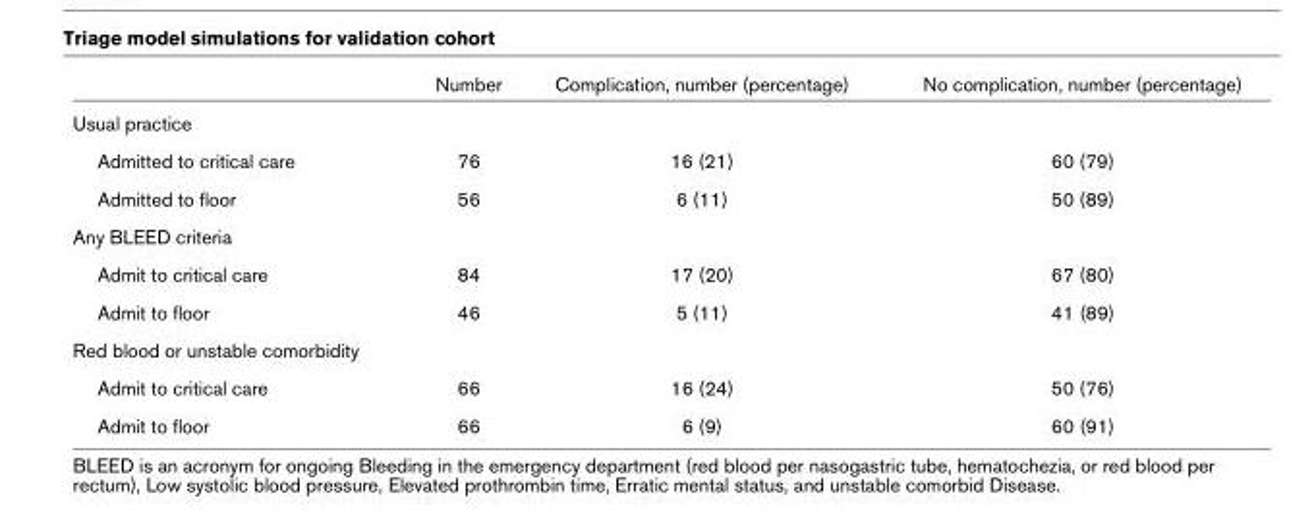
<table><thead><tr><td></td><td>Number</td><td>Complication, number (percentage)</td><td>No complication, number (percentage)</td></tr></thead><tbody><tr><td colspan="4">Usual practice</td></tr><tr><td>Admitted to critical care</td><td>76</td><td>16 (21)</td><td>60 (79)</td></tr><tr><td>Admitted to floor</td><td>56</td><td>6 (11)</td><td>50 (89)</td></tr><tr><td colspan="4">Any BLEED criteria</td></tr><tr><td>Admit to critical care</td><td>84</td><td>17 (20)</td><td>67 (80)</td></tr><tr><td>Admit to floor</td><td>46</td><td>5 (11)</td><td>41 (89)</td></tr><tr><td colspan="4">Red blood or unstable comorbidity</td></tr><tr><td>Admit to critical care</td><td>66</td><td>16 (24)</td><td>50 (76)</td></tr><tr><td>Admit to floor</td><td>66</td><td>6 (9)</td><td>60 (91)</td></tr></tbody></table>